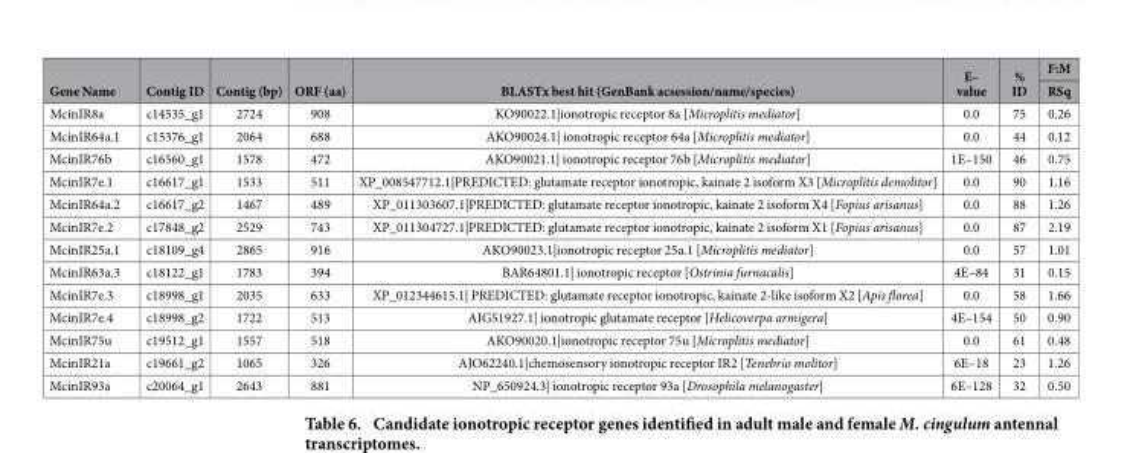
<table><thead><tr><td rowspan="2">Gene Name</td><td rowspan="2">Contig ID</td><td rowspan="2">Contig (bp)</td><td rowspan="2">ORF (aa)</td><td rowspan="2">BLASTx best hit (GenBank acsession/name/species)</td><td rowspan="2">E– value</td><td rowspan="2">% ID</td><td rowspan="2">F:M RSq</td></tr><tr></tr></thead><tbody><tr><td>McinIR8a</td><td>c14535_g1</td><td>2724</td><td>908</td><td>KO90022.1|ionotropic receptor 8a [Microplitis mediator]</td><td>0.0</td><td>75</td><td>0.26</td></tr><tr><td>McinIR64a.1</td><td>c15376_g1</td><td>2064</td><td>688</td><td>AKO90024.1| ionotropic receptor 64a [Microplitis mediator]</td><td>0.0</td><td>44</td><td>0.12</td></tr><tr><td>McinIR76b</td><td>c16560_g1</td><td>1578</td><td>472</td><td>AKO90021.1| ionotropic receptor 76b [Microplitis mediator]</td><td>1E–150</td><td>46</td><td>0.75</td></tr><tr><td>McinIR7e.1</td><td>c16617_g1</td><td>1533</td><td>511</td><td>XP_008547712.1|PREDICTED: glutamate receptor ionotropic, kainate 2 isoform X3 [Microplitis demolitor]</td><td>0.0</td><td>90</td><td>1.16</td></tr><tr><td>McinIR64a.2</td><td>c16617_g2</td><td>1467</td><td>489</td><td>XP_011303607.1|PREDICTED: glutamate receptor ionotropic, kainate 2 isoform X4 [Fopius arisanus]</td><td>0.0</td><td>88</td><td>1.26</td></tr><tr><td>McinIR7e.2</td><td>c17848_g2</td><td>2529</td><td>743</td><td>XP_011304727.1|PREDICTED: glutamate receptor ionotropic, kainate 2 isoform X1 [Fopius arisanus]</td><td>0.0</td><td>87</td><td>2.19</td></tr><tr><td>McinIR25a.1</td><td>c18109_g4</td><td>2865</td><td>916</td><td>AKO90023.1|ionotropic receptor 25a.1 [Microplitis mediator]</td><td>0.0</td><td>57</td><td>1.01</td></tr><tr><td>McinIR63a.3</td><td>c18122_g1</td><td>1783</td><td>394</td><td>BAR64801.1| ionotropic receptor [Ostrinia furnacalis]</td><td>4E–84</td><td>31</td><td>0.15</td></tr><tr><td>McinIR7e.3</td><td>c18998_g1</td><td>2035</td><td>633</td><td>XP_012344615.1| PREDICTED: glutamate receptor ionotropic, kainate 2-like isoform X2 [Apis florea]</td><td>0.0</td><td>58</td><td>1.66</td></tr><tr><td>McinIR7e.4</td><td>c18998_g2</td><td>1722</td><td>513</td><td>AIG51927.1| ionotropic glutamate receptor [Helicoverpa armigera]</td><td>4E–154</td><td>50</td><td>0.90</td></tr><tr><td>McinIR75u</td><td>c19512_g1</td><td>1557</td><td>518</td><td>AKO90020.1|ionotropic receptor 75u [Microplitis mediator]</td><td>0.0</td><td>61</td><td>0.48</td></tr><tr><td>McinIR21a</td><td>c19661_g2</td><td>1065</td><td>326</td><td>AJO62240.1|chemosensory ionotropic receptor IR2 [Tenebrio molitor]</td><td>6E–18</td><td>23</td><td>1.26</td></tr><tr><td>McinIR93a</td><td>c20064_g1</td><td>2643</td><td>881</td><td>NP_650924.3| ionotropic receptor 93a [Drosophila melanogaster]</td><td>6E–128</td><td>32</td><td>0.50</td></tr></tbody></table>